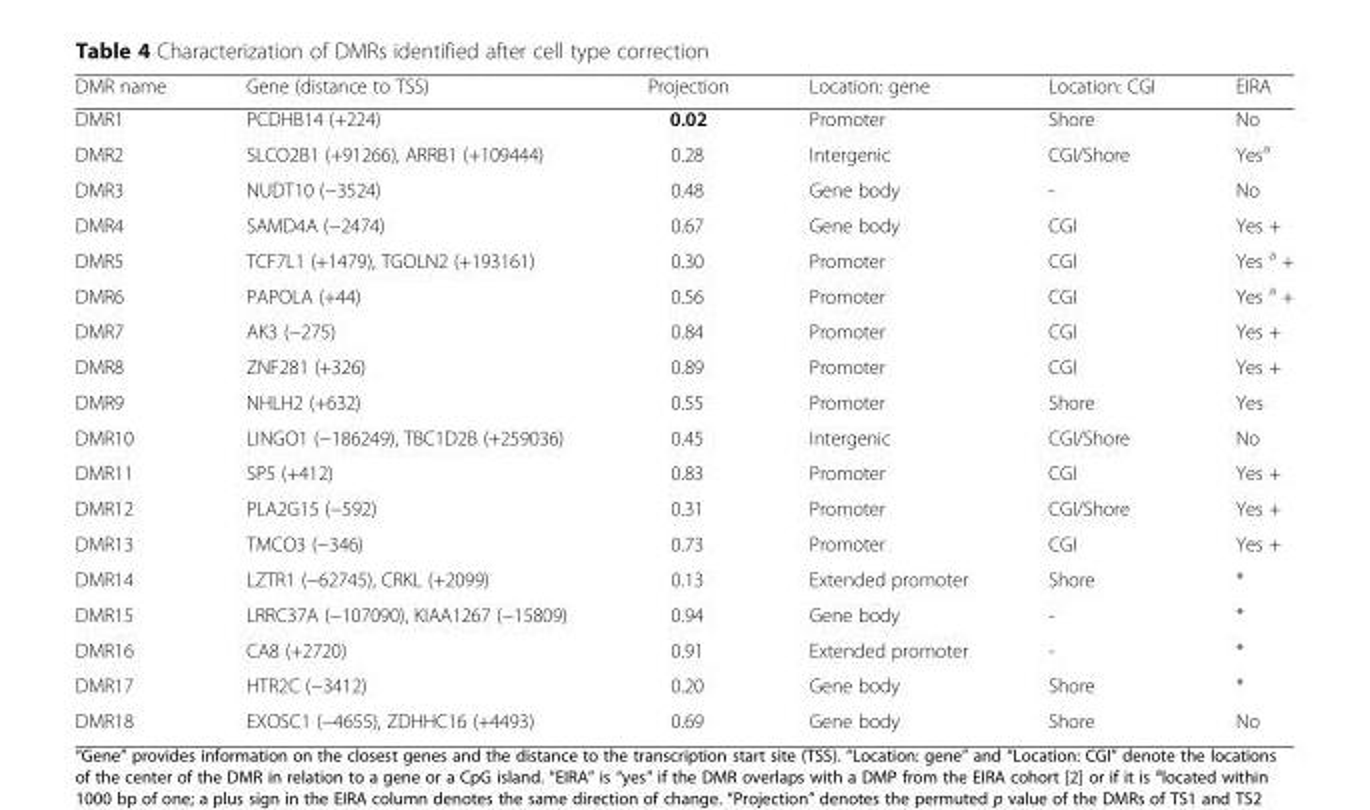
<table><thead><tr><td>DMR name</td><td>Gene (distance to TSS)</td><td>Projection</td><td>Location: gene</td><td>Location: CGI</td><td>EIRA</td></tr></thead><tbody><tr><td>DMR1</td><td>PCDHB14 (+224)</td><td>0.02</td><td>Promoter</td><td>Shore</td><td>No</td></tr><tr><td>DMR2</td><td>SLCO2B1 (+91266), ARRB1 (+109444)</td><td>0.28</td><td>Intergenic</td><td>CGI/Shore</td><td>Yes<sup>a</sup></td></tr><tr><td>DMR3</td><td>NUDT10 (−3524)</td><td>0.48</td><td>Gene body</td><td>-</td><td>No</td></tr><tr><td>DMR4</td><td>SAMD4A (−2474)</td><td>0.67</td><td>Gene body</td><td>CGI</td><td>Yes +</td></tr><tr><td>DMR5</td><td>TCF7L1 (+1479), TGOLN2 (+193161)</td><td>0.30</td><td>Promoter</td><td>CGI</td><td>Yes <sup>a</sup> +</td></tr><tr><td>DMR6</td><td>PAPOLA (+44)</td><td>0.56</td><td>Promoter</td><td>CGI</td><td>Yes <sup>a</sup> +</td></tr><tr><td>DMR7</td><td>AK3 (−275)</td><td>0.84</td><td>Promoter</td><td>CGI</td><td>Yes +</td></tr><tr><td>DMR8</td><td>ZNF281 (+326)</td><td>0.89</td><td>Promoter</td><td>CGI</td><td>Yes +</td></tr><tr><td>DMR9</td><td>NHLH2 (+632)</td><td>0.55</td><td>Promoter</td><td>Shore</td><td>Yes</td></tr><tr><td>DMR10</td><td>LINGO1 (−186249), TBC1D2B (+259036)</td><td>0.45</td><td>Intergenic</td><td>CGI/Shore</td><td>No</td></tr><tr><td>DMR11</td><td>SP5 (+412)</td><td>0.83</td><td>Promoter</td><td>CGI</td><td>Yes +</td></tr><tr><td>DMR12</td><td>PLA2G15 (−592)</td><td>0.31</td><td>Promoter</td><td>CGI/Shore</td><td>Yes +</td></tr><tr><td>DMR13</td><td>TMCO3 (−346)</td><td>0.73</td><td>Promoter</td><td>CGI</td><td>Yes +</td></tr><tr><td>DMR14</td><td>LZTR1 (−62745), CRKL (+2099)</td><td>0.13</td><td>Extended promoter</td><td>Shore</td><td>*</td></tr><tr><td>DMR15</td><td>LRRC37A (−107090), KIAA1267 (−15809)</td><td>0.94</td><td>Gene body</td><td>-</td><td>*</td></tr><tr><td>DMR16</td><td>CA8 (+2720)</td><td>0.91</td><td>Extended promoter</td><td>-</td><td>*</td></tr><tr><td>DMR17</td><td>HTR2C (−3412)</td><td>0.20</td><td>Gene body</td><td>Shore</td><td>*</td></tr><tr><td>DMR18</td><td>EXOSC1 (−4655), ZDHHC16 (+4493)</td><td>0.69</td><td>Gene body</td><td>Shore</td><td>No</td></tr></tbody></table>